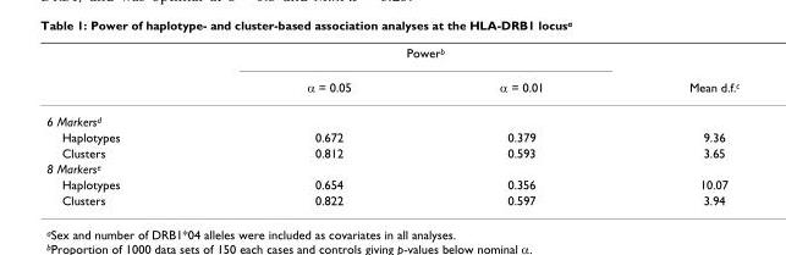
<table><thead><tr><td rowspan="2"></td><td colspan="2">Power<sup>b</sup></td><td rowspan="2">Mean d.f.<sup>c</sup></td></tr><tr><td>α = 0.05</td><td>α = 0.01</td></tr></thead><tbody><tr><td colspan="4">6 Markers<sup>d</sup></td></tr><tr><td>Haplotypes</td><td>0.672</td><td>0.379</td><td>9.36</td></tr><tr><td>Clusters</td><td>0.812</td><td>0.593</td><td>3.65</td></tr><tr><td colspan="4">8 Markers<sup>e</sup></td></tr><tr><td>Haplotypes</td><td>0.654</td><td>0.356</td><td>10.07</td></tr><tr><td>Clusters</td><td>0.822</td><td>0.597</td><td>3.94</td></tr></tbody></table>